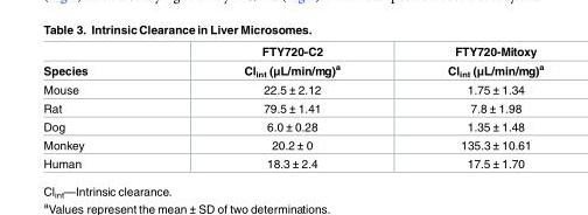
<table><thead><tr><td rowspan="2">Species</td><td rowspan="2">FTY720-C2 Cl<sub>int</sub> (μL/min/mg)<sup>a</sup></td><td rowspan="2">FTY720-Mitoxy Cl<sub>int</sub> (μL/min/mg)<sup>a</sup></td></tr><tr></tr></thead><tbody><tr><td>Mouse</td><td>22.5 ± 2.12</td><td>1.75 ± 1.34</td></tr><tr><td>Rat</td><td>79.5 ± 1.41</td><td>7.8 ± 1.98</td></tr><tr><td>Dog</td><td>6.0 ± 0.28</td><td>1.35 ± 1.48</td></tr><tr><td>Monkey</td><td>20.2 ± 0</td><td>135.3 ± 10.61</td></tr><tr><td>Human</td><td>18.3 ± 2.4</td><td>17.5 ± 1.70</td></tr></tbody></table>